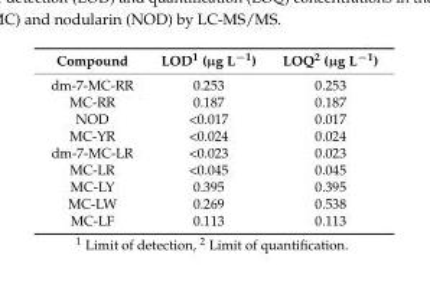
<table><thead><tr><td>Compound</td><td>LOD<sup>1</sup> (µg L<sup>−1</sup>)</td><td>LOQ<sup>2</sup> (µg L<sup>−1</sup>)</td></tr></thead><tbody><tr><td>dm-7-MC-RR</td><td>0.253</td><td>0.253</td></tr><tr><td>MC-RR</td><td>0.187</td><td>0.187</td></tr><tr><td>NOD</td><td>&lt;0.017</td><td>0.017</td></tr><tr><td>MC-YR</td><td>&lt;0.024</td><td>0.024</td></tr><tr><td>dm-7-MC-LR</td><td>&lt;0.023</td><td>0.023</td></tr><tr><td>MC-LR</td><td>&lt;0.045</td><td>0.045</td></tr><tr><td>MC-LY</td><td>0.395</td><td>0.395</td></tr><tr><td>MC-LW</td><td>0.269</td><td>0.538</td></tr><tr><td>MC-LF</td><td>0.113</td><td>0.113</td></tr></tbody></table>